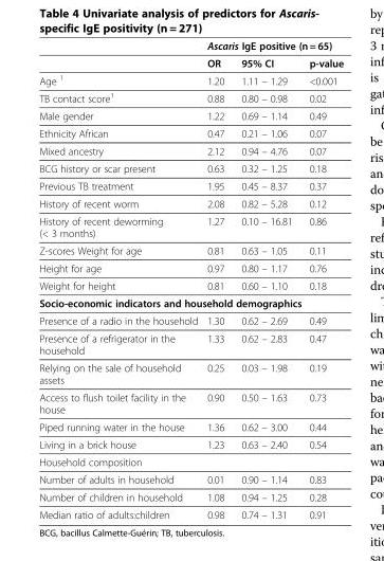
<table><thead><tr><td rowspan="2"></td><td colspan="3">Ascaris IgE positive (n = 65)</td></tr><tr><td>OR</td><td>95% CI</td><td>p-value</td></tr></thead><tbody><tr><td>Age <sup>1</sup></td><td>1.20</td><td>1.11 – 1.29</td><td>&lt;0.001</td></tr><tr><td>TB contact score<sup>1</sup></td><td>0.88</td><td>0.80 – 0.98</td><td>0.02</td></tr><tr><td>Male gender</td><td>1.22</td><td>0.69 – 1.14</td><td>0.49</td></tr><tr><td>Ethnicity African</td><td>0.47</td><td>0.21 – 1.06</td><td>0.07</td></tr><tr><td>Mixed ancestry</td><td>2.12</td><td>0.94 – 4.76</td><td>0.07</td></tr><tr><td>BCG history or scar present</td><td>0.63</td><td>0.32 – 1.25</td><td>0.18</td></tr><tr><td>Previous TB treatment</td><td>1.95</td><td>0.45 – 8.37</td><td>0.37</td></tr><tr><td>History of recent worm</td><td>2.08</td><td>0.82 – 5.28</td><td>0.12</td></tr><tr><td>History of recent deworming (&lt; 3 months)</td><td>1.27</td><td>0.10 – 16.81</td><td>0.86</td></tr><tr><td>Z-scores Weight for age</td><td>0.81</td><td>0.63 – 1.05</td><td>0.11</td></tr><tr><td>Height for age</td><td>0.97</td><td>0.80 – 1.17</td><td>0.76</td></tr><tr><td>Weight for height</td><td>0.81</td><td>0.60 – 1.10</td><td>0.18</td></tr><tr><td colspan="4">Socio-economic indicators and household demographics</td></tr><tr><td>Presence of a radio in the household</td><td>1.30</td><td>0.62 – 2.69</td><td>0.49</td></tr><tr><td>Presence of a refrigerator in the household</td><td>1.33</td><td>0.62 – 2.83</td><td>0.47</td></tr><tr><td>Relying on the sale of household assets</td><td>0.25</td><td>0.03 – 1.98</td><td>0.19</td></tr><tr><td>Access to flush toilet facility in the house</td><td>0.90</td><td>0.50 – 1.63</td><td>0.73</td></tr><tr><td>Piped running water in the house</td><td>1.36</td><td>0.62 – 3.00</td><td>0.44</td></tr><tr><td>Living in a brick house</td><td>1.23</td><td>0.63 – 2.40</td><td>0.54</td></tr><tr><td colspan="4">Household composition</td></tr><tr><td>Number of adults in household</td><td>0.01</td><td>0.90 – 1.14</td><td>0.83</td></tr><tr><td>Number of children in household</td><td>1.08</td><td>0.94 – 1.25</td><td>0.28</td></tr><tr><td>Median ratio of adults:children</td><td>0.98</td><td>0.74 – 1.31</td><td>0.91</td></tr></tbody></table>